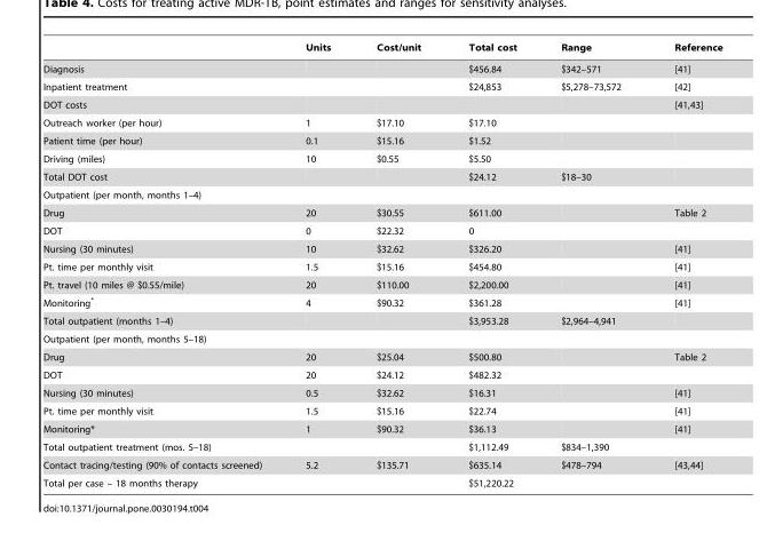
<table><thead><tr><td></td><td>Units</td><td>Cost/unit</td><td>Total cost</td><td>Range</td><td>Reference</td></tr></thead><tbody><tr><td>Diagnosis</td><td></td><td></td><td>$456.84</td><td>$342–571</td><td>[41]</td></tr><tr><td>Inpatient treatment</td><td></td><td></td><td>$24,853</td><td>$5,278–73,572</td><td>[42]</td></tr><tr><td>DOT costs</td><td></td><td></td><td></td><td></td><td>[41,43]</td></tr><tr><td>Outreach worker (per hour)</td><td>1</td><td>$17.10</td><td>$17.10</td><td></td><td></td></tr><tr><td>Patient time (per hour)</td><td>0.1</td><td>$15.16</td><td>$1.52</td><td></td><td></td></tr><tr><td>Driving (miles)</td><td>10</td><td>$0.55</td><td>$5.50</td><td></td><td></td></tr><tr><td>Total DOT cost</td><td></td><td></td><td>$24.12</td><td>$18–30</td><td></td></tr><tr><td colspan="6">Outpatient (per month, months 1–4)</td></tr><tr><td>Drug</td><td>20</td><td>$30.55</td><td>$611.00</td><td></td><td>Table 2</td></tr><tr><td>DOT</td><td>0</td><td>$22.32</td><td>0</td><td></td><td></td></tr><tr><td>Nursing (30 minutes)</td><td>10</td><td>$32.62</td><td>$326.20</td><td></td><td>[41]</td></tr><tr><td>Pt. time per monthly visit</td><td>1.5</td><td>$15.16</td><td>$454.80</td><td></td><td>[41]</td></tr><tr><td>Pt. travel (10 miles @ $0.55/mile)</td><td>20</td><td>$110.00</td><td>$2,200.00</td><td></td><td>[41]</td></tr><tr><td>Monitoring*</td><td>4</td><td>$90.32</td><td>$361.28</td><td></td><td>[41]</td></tr><tr><td>Total outpatient (months 1–4)</td><td></td><td></td><td>$3,953.28</td><td>$2,964–4,941</td><td></td></tr><tr><td colspan="6">Outpatient (per month, months 5–18)</td></tr><tr><td>Drug</td><td>20</td><td>$25.04</td><td>$500.80</td><td></td><td>Table 2</td></tr><tr><td>DOT</td><td>20</td><td>$24.12</td><td>$482.32</td><td></td><td></td></tr><tr><td>Nursing (30 minutes)</td><td>0.5</td><td>$32.62</td><td>$16.31</td><td></td><td>[41]</td></tr><tr><td>Pt. time per monthly visit</td><td>1.5</td><td>$15.16</td><td>$22.74</td><td></td><td>[41]</td></tr><tr><td>Monitoring*</td><td>1</td><td>$90.32</td><td>$36.13</td><td></td><td>[41]</td></tr><tr><td>Total outpatient treatment (mos. 5–18)</td><td></td><td></td><td>$1,112.49</td><td>$834–1,390</td><td></td></tr><tr><td>Contact tracing/testing (90% of contacts screened)</td><td>5.2</td><td>$135.71</td><td>$635.14</td><td>$478–794</td><td>[43,44]</td></tr><tr><td>Total per case – 18 months therapy</td><td></td><td></td><td>$51,220.22</td><td></td><td></td></tr></tbody></table>